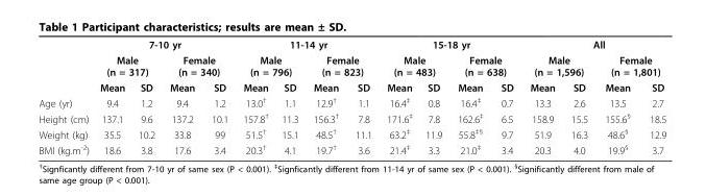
<table><thead><tr><td rowspan="3"></td><td colspan="4">7-10 yr</td><td colspan="4">11-14 yr</td><td colspan="4">15-18 yr</td><td colspan="4">All</td></tr><tr><td colspan="2">Male (n = 317)</td><td colspan="2">Female (n = 340)</td><td colspan="2">Male (n = 796)</td><td colspan="2">Female (n = 823)</td><td colspan="2">Male (n = 483)</td><td colspan="2">Female (n = 638)</td><td colspan="2">Male (n = 1,596)</td><td colspan="2">Female (n = 1,801)</td></tr><tr><td>Mean</td><td>SD</td><td>Mean</td><td>SD</td><td>Mean</td><td>SD</td><td>Mean</td><td>SD</td><td>Mean</td><td>SD</td><td>Mean</td><td>SD</td><td>Mean</td><td>SD</td><td>Mean</td><td>SD</td></tr></thead><tbody><tr><td>Age (yr)</td><td>9.4</td><td>1.2</td><td>9.4</td><td>1.2</td><td>13.0<sup>†</sup></td><td>1.1</td><td>12.9<sup>†</sup></td><td>1.1</td><td>16.4<sup>‡</sup></td><td>0.8</td><td>16.4<sup>‡</sup></td><td>0.7</td><td>13.3</td><td>2.6</td><td>13.5</td><td>2.7</td></tr><tr><td>Height (cm)</td><td>137.1</td><td>9.6</td><td>137.2</td><td>10.1</td><td>157.8<sup>†</sup></td><td>11.3</td><td>156.3<sup>†</sup></td><td>7.8</td><td>171.6<sup>‡</sup></td><td>7.8</td><td>162.6<sup>‡</sup></td><td>6.5</td><td>158.9</td><td>15.5</td><td>155.6<sup>§</sup></td><td>18.5</td></tr><tr><td>Weight (kg)</td><td>35.5</td><td>10.2</td><td>33.8</td><td>99</td><td>51.5<sup>†</sup></td><td>15.1</td><td>48.5<sup>†</sup></td><td>11.1</td><td>63.2<sup>‡</sup></td><td>11.9</td><td>55.8<sup>‡§</sup></td><td>9.7</td><td>51.9</td><td>16.3</td><td>48.6<sup>§</sup></td><td>12.9</td></tr><tr><td>BMI (kg.m<sup>-2</sup>)</td><td>18.6</td><td>3.8</td><td>17.6</td><td>3.4</td><td>20.3<sup>†</sup></td><td>4.1</td><td>19.7<sup>†</sup></td><td>3.6</td><td>21.4<sup>‡</sup></td><td>3.3</td><td>21.0<sup>‡</sup></td><td>3.4</td><td>20.3</td><td>4.0</td><td>19.9<sup>§</sup></td><td>3.7</td></tr></tbody></table>